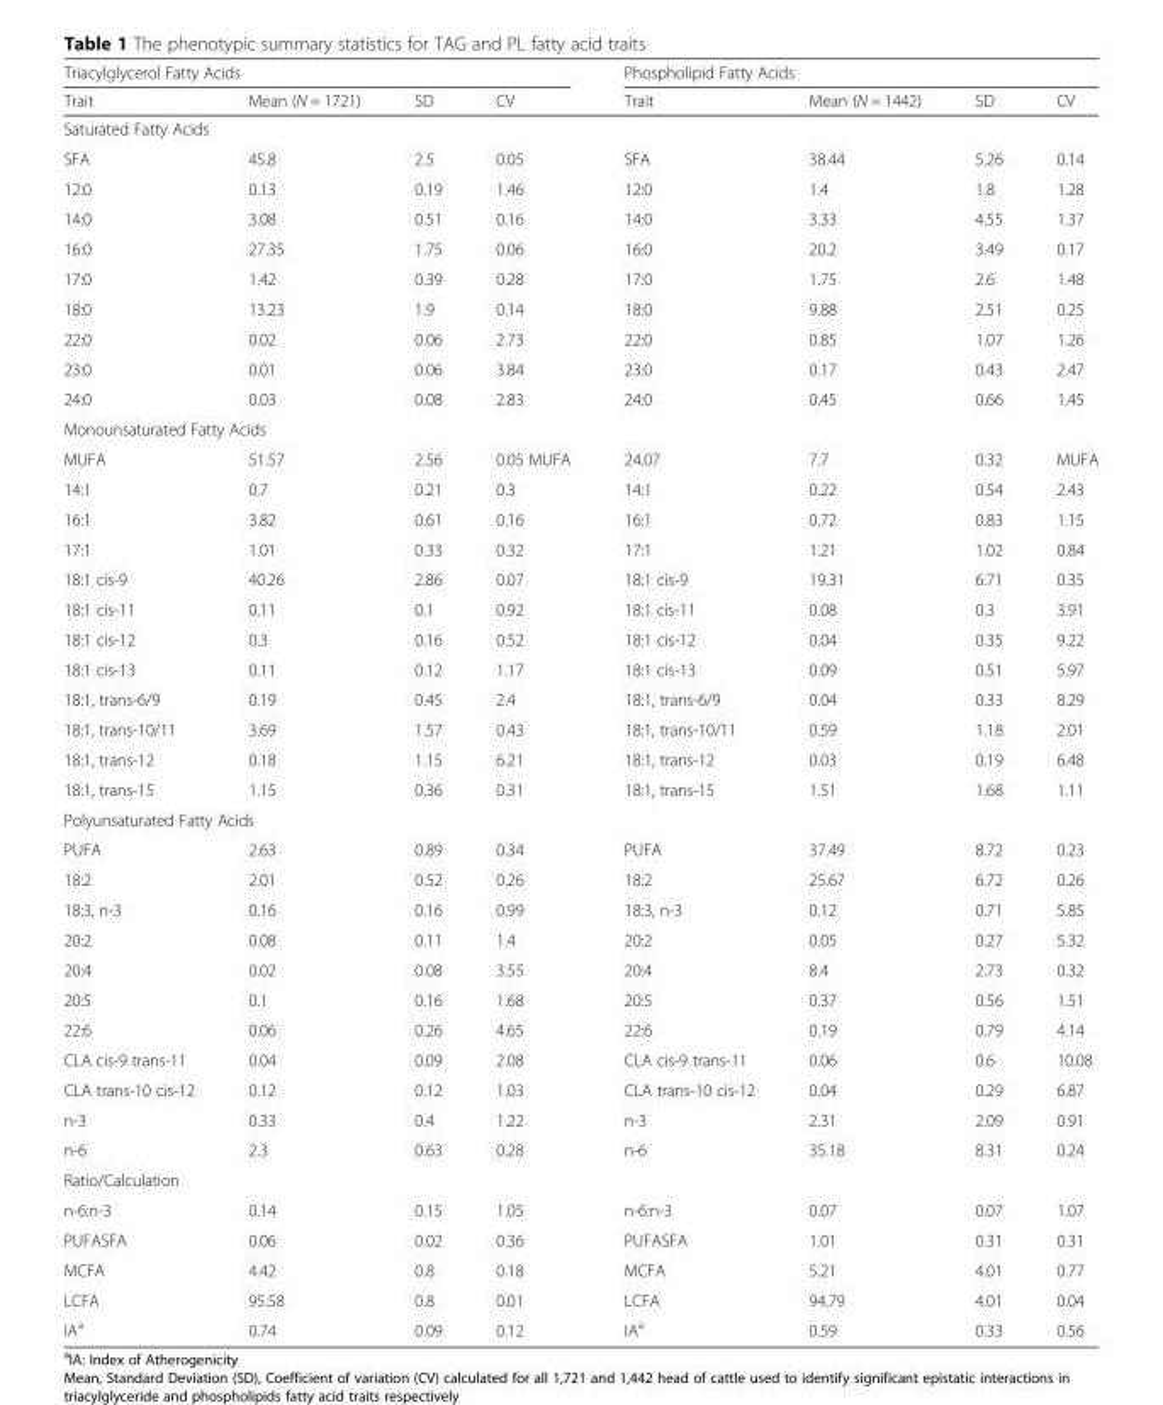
<table><thead><tr><td colspan="4">Triacylglycerol Fatty Acids</td><td colspan="4">Phospholipid Fatty Acids</td></tr><tr><td>Trait</td><td>Mean (N = 1721)</td><td>SD</td><td>CV</td><td>Trait</td><td>Mean (N = 1442)</td><td>SD</td><td>CV</td></tr></thead><tbody><tr><td colspan="8">Saturated Fatty Acids</td></tr><tr><td>SFA</td><td>45.8</td><td>2.5</td><td>0.05</td><td>SFA</td><td>38.44</td><td>5.26</td><td>0.14</td></tr><tr><td>12:0</td><td>0.13</td><td>0.19</td><td>1.46</td><td>12:0</td><td>1.4</td><td>1.8</td><td>1.28</td></tr><tr><td>14:0</td><td>3.08</td><td>0.51</td><td>0.16</td><td>14:0</td><td>3.33</td><td>4.55</td><td>1.37</td></tr><tr><td>16:0</td><td>27.35</td><td>1.75</td><td>0.06</td><td>16:0</td><td>20.2</td><td>3.49</td><td>0.17</td></tr><tr><td>17:0</td><td>1.42</td><td>0.39</td><td>0.28</td><td>17:0</td><td>1.75</td><td>2.6</td><td>1.48</td></tr><tr><td>18:0</td><td>13.23</td><td>1.9</td><td>0.14</td><td>18:0</td><td>9.88</td><td>2.51</td><td>0.25</td></tr><tr><td>22:0</td><td>0.02</td><td>0.06</td><td>2.73</td><td>22:0</td><td>0.85</td><td>1.07</td><td>1.26</td></tr><tr><td>23:0</td><td>0.01</td><td>0.06</td><td>3.84</td><td>23:0</td><td>0.17</td><td>0.43</td><td>2.47</td></tr><tr><td>24:0</td><td>0.03</td><td>0.08</td><td>2.83</td><td>24:0</td><td>0.45</td><td>0.66</td><td>1.45</td></tr><tr><td colspan="8">Monounsaturated Fatty Acids</td></tr><tr><td>MUFA</td><td>51.57</td><td>2.56</td><td>0.05 MUFA</td><td>24.07</td><td>7.7</td><td>0.32</td><td>MUFA</td></tr><tr><td>14:1</td><td>0.7</td><td>0.21</td><td>0.3</td><td>14:1</td><td>0.22</td><td>0.54</td><td>2.43</td></tr><tr><td>16:1</td><td>3.82</td><td>0.61</td><td>0.16</td><td>16:1</td><td>0.72</td><td>0.83</td><td>1.15</td></tr><tr><td>17:1</td><td>1.01</td><td>0.33</td><td>0.32</td><td>17:1</td><td>1.21</td><td>1.02</td><td>0.84</td></tr><tr><td>18:1 cis-9</td><td>40.26</td><td>2.86</td><td>0.07</td><td>18:1 cis-9</td><td>19.31</td><td>6.71</td><td>0.35</td></tr><tr><td>18:1 cis-11</td><td>0.11</td><td>0.1</td><td>0.92</td><td>18:1 cis-11</td><td>0.08</td><td>0.3</td><td>3.91</td></tr><tr><td>18:1 cis-12</td><td>0.3</td><td>0.16</td><td>0.52</td><td>18:1 cis-12</td><td>0.04</td><td>0.35</td><td>9.22</td></tr><tr><td>18:1 cis-13</td><td>0.11</td><td>0.12</td><td>1.17</td><td>18:1 cis-13</td><td>0.09</td><td>0.51</td><td>5.97</td></tr><tr><td>18:1, trans-6/9</td><td>0.19</td><td>0.45</td><td>2.4</td><td>18:1, trans-6/9</td><td>0.04</td><td>0.33</td><td>8.29</td></tr><tr><td>18:1, trans-10/11</td><td>3.69</td><td>1.57</td><td>0.43</td><td>18:1, trans-10/11</td><td>0.59</td><td>1.18</td><td>2.01</td></tr><tr><td>18:1, trans-12</td><td>0.18</td><td>1.15</td><td>6.21</td><td>18:1, trans-12</td><td>0.03</td><td>0.19</td><td>6.48</td></tr><tr><td>18:1, trans-15</td><td>1.15</td><td>0.36</td><td>0.31</td><td>18:1, trans-15</td><td>1.51</td><td>1.68</td><td>1.11</td></tr><tr><td colspan="8">Polyunsaturated Fatty Acids</td></tr><tr><td>PUFA</td><td>2.63</td><td>0.89</td><td>0.34</td><td>PUFA</td><td>37.49</td><td>8.72</td><td>0.23</td></tr><tr><td>18:2</td><td>2.01</td><td>0.52</td><td>0.26</td><td>18:2</td><td>25.67</td><td>6.72</td><td>0.26</td></tr><tr><td>18:3, n-3</td><td>0.16</td><td>0.16</td><td>0.99</td><td>18:3, n-3</td><td>0.12</td><td>0.71</td><td>5.85</td></tr><tr><td>20:2</td><td>0.08</td><td>0.11</td><td>1.4</td><td>20:2</td><td>0.05</td><td>0.27</td><td>5.32</td></tr><tr><td>20:4</td><td>0.02</td><td>0.08</td><td>3.55</td><td>20:4</td><td>8.4</td><td>2.73</td><td>0.32</td></tr><tr><td>20:5</td><td>0.1</td><td>0.16</td><td>1.68</td><td>20:5</td><td>0.37</td><td>0.56</td><td>1.51</td></tr><tr><td>22:6</td><td>0.06</td><td>0.26</td><td>4.65</td><td>22:6</td><td>0.19</td><td>0.79</td><td>4.14</td></tr><tr><td>CLA cis-9 trans-11</td><td>0.04</td><td>0.09</td><td>2.08</td><td>CLA cis-9 trans-11</td><td>0.06</td><td>0.6</td><td>10.08</td></tr><tr><td>CLA trans-10 cis-12</td><td>0.12</td><td>0.12</td><td>1.03</td><td>CLA trans-10 cis-12</td><td>0.04</td><td>0.29</td><td>6.87</td></tr><tr><td>n-3</td><td>0.33</td><td>0.4</td><td>1.22</td><td>n-3</td><td>2.31</td><td>2.09</td><td>0.91</td></tr><tr><td>n-6</td><td>2.3</td><td>0.63</td><td>0.28</td><td>n-6</td><td>35.18</td><td>8.31</td><td>0.24</td></tr><tr><td colspan="8">Ratio/Calculation</td></tr><tr><td>n-6:n-3</td><td>0.14</td><td>0.15</td><td>1.05</td><td>n-6:n-3</td><td>0.07</td><td>0.07</td><td>1.07</td></tr><tr><td>PUFASFA</td><td>0.06</td><td>0.02</td><td>0.36</td><td>PUFASFA</td><td>1.01</td><td>0.31</td><td>0.31</td></tr><tr><td>MCFA</td><td>4.42</td><td>0.8</td><td>0.18</td><td>MCFA</td><td>5.21</td><td>4.01</td><td>0.77</td></tr><tr><td>LCFA</td><td>95.58</td><td>0.8</td><td>0.01</td><td>LCFA</td><td>94.79</td><td>4.01</td><td>0.04</td></tr><tr><td>IA<sup>a</sup></td><td>0.74</td><td>0.09</td><td>0.12</td><td>IA<sup>a</sup></td><td>0.59</td><td>0.33</td><td>0.56</td></tr></tbody></table>